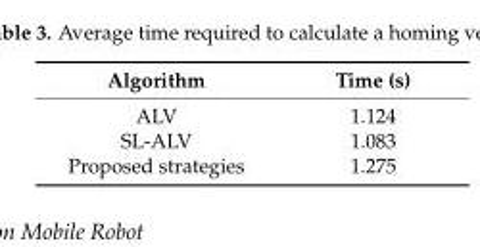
<table><thead><tr><td>Algorithm</td><td>Time (s)</td></tr></thead><tbody><tr><td>ALV</td><td>1.124</td></tr><tr><td>SL-ALV</td><td>1.083</td></tr><tr><td>Proposed strategies</td><td>1.275</td></tr></tbody></table>